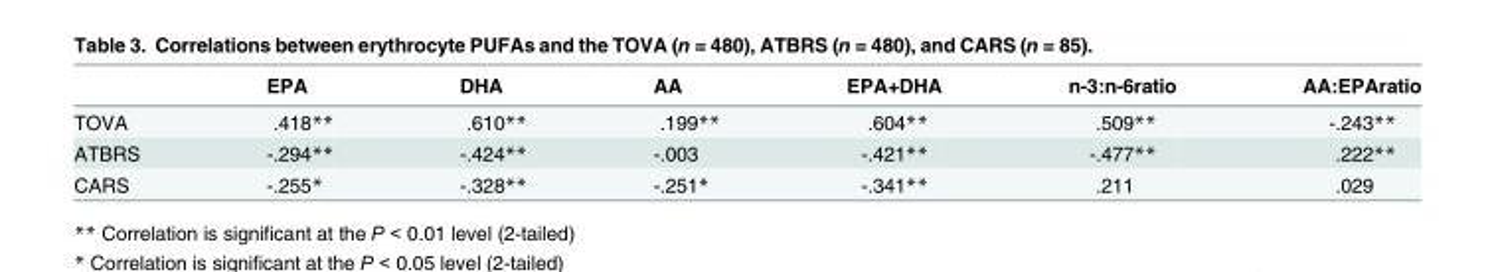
<table><thead><tr><td></td><td>EPA</td><td>DHA</td><td>AA</td><td>EPA+DHA</td><td>n-3:n-6ratio</td><td>AA:EPAratio</td></tr></thead><tbody><tr><td>TOVA</td><td>.418**</td><td>.610**</td><td>.199**</td><td>.604**</td><td>.509**</td><td>-.243**</td></tr><tr><td>ATBRS</td><td>-.294**</td><td>-.424**</td><td>-.003</td><td>-.421**</td><td>-.477**</td><td>.222**</td></tr><tr><td>CARS</td><td>-.255*</td><td>-.328**</td><td>-.251*</td><td>-.341**</td><td>.211</td><td>.029</td></tr></tbody></table>